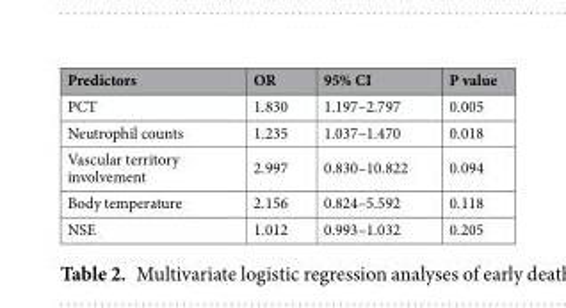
<table><thead><tr><td>Predictors</td><td>OR</td><td>95% CI</td><td>P value</td></tr></thead><tbody><tr><td>PCT</td><td>1.830</td><td>1.197–2.797</td><td>0.005</td></tr><tr><td>Neutrophil counts</td><td>1.235</td><td>1.037–1.470</td><td>0.018</td></tr><tr><td>Vascular territory involvement</td><td>2.997</td><td>0.830–10.822</td><td>0.094</td></tr><tr><td>Body temperature</td><td>2.156</td><td>0.824–5.592</td><td>0.118</td></tr><tr><td>NSE</td><td>1.012</td><td>0.993–1.032</td><td>0.205</td></tr></tbody></table>